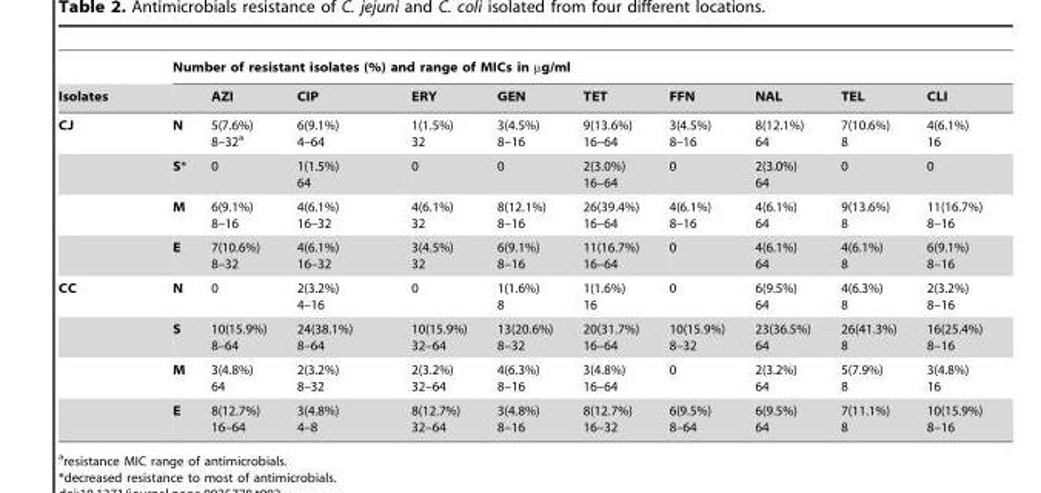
<table><thead><tr><td rowspan="2">Isolates</td><td colspan="10">Number of resistant isolates (%) and range of MICs in µg/ml</td></tr><tr><td></td><td>AZI</td><td>CIP</td><td>ERY</td><td>GEN</td><td>TET</td><td>FFN</td><td>NAL</td><td>TEL</td><td>CLI</td></tr></thead><tbody><tr><td rowspan="4">CJ</td><td>N</td><td>5(7.6%) 8–32<sup>a</sup></td><td>6(9.1%) 4–64</td><td>1(1.5%) 32</td><td>3(4.5%) 8–16</td><td>9(13.6%) 16–64</td><td>3(4.5%) 8–16</td><td>8(12.1%) 64</td><td>7(10.6%) 8</td><td>4(6.1%) 16</td></tr><tr><td>S*</td><td>0</td><td>1(1.5%) 64</td><td>0</td><td>0</td><td>2(3.0%) 16–64</td><td>0</td><td>2(3.0%) 64</td><td>0</td><td>0</td></tr><tr><td>M</td><td>6(9.1%) 8–16</td><td>4(6.1%) 16–32</td><td>4(6.1%) 32</td><td>8(12.1%) 8–16</td><td>26(39.4%) 16–64</td><td>4(6.1%) 8–16</td><td>4(6.1%) 64</td><td>9(13.6%) 8</td><td>11(16.7%) 8–16</td></tr><tr><td>E</td><td>7(10.6%) 8–32</td><td>4(6.1%) 16–32</td><td>3(4.5%) 32</td><td>6(9.1%) 8–16</td><td>11(16.7%) 16–64</td><td>0</td><td>4(6.1%) 64</td><td>4(6.1%) 8</td><td>6(9.1%) 8–16</td></tr><tr><td rowspan="4">CC</td><td>N</td><td>0</td><td>2(3.2%) 4–16</td><td>0</td><td>1(1.6%) 8</td><td>1(1.6%) 16</td><td>0</td><td>6(9.5%) 64</td><td>4(6.3%) 8</td><td>2(3.2%) 8–16</td></tr><tr><td>S</td><td>10(15.9%) 8–64</td><td>24(38.1%) 8–64</td><td>10(15.9%) 32–64</td><td>13(20.6%) 8–32</td><td>20(31.7%) 16–64</td><td>10(15.9%) 8–32</td><td>23(36.5%) 64</td><td>26(41.3%) 8</td><td>16(25.4%) 8–16</td></tr><tr><td>M</td><td>3(4.8%) 64</td><td>2(3.2%) 8–32</td><td>2(3.2%) 32–64</td><td>4(6.3%) 8–16</td><td>3(4.8%) 16–64</td><td>0</td><td>2(3.2%) 64</td><td>5(7.9%) 8</td><td>3(4.8%) 16</td></tr><tr><td>E</td><td>8(12.7%) 16–64</td><td>3(4.8%) 4–8</td><td>8(12.7%) 32–64</td><td>3(4.8%) 8–16</td><td>8(12.7%) 16–32</td><td>6(9.5%) 8–64</td><td>6(9.5%) 64</td><td>7(11.1%) 8</td><td>10(15.9%) 8–16</td></tr></tbody></table>